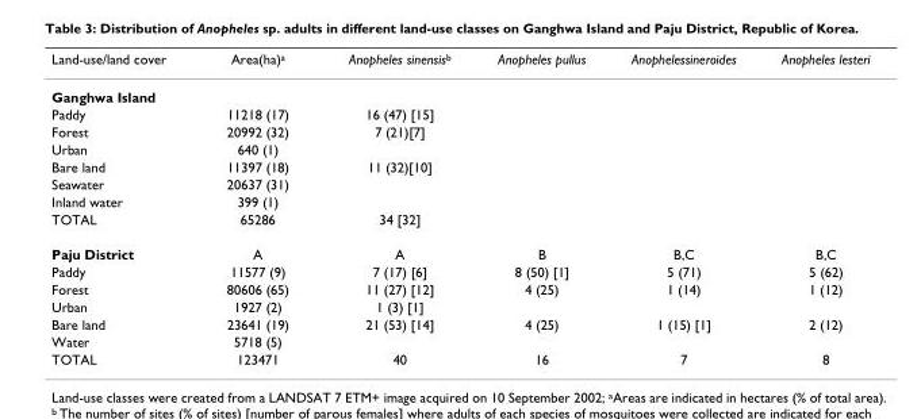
<table><thead><tr><td>Land-use/land cover</td><td>Area(ha)<sup>a</sup></td><td>Anopheles sinensis<sup>b</sup></td><td>Anopheles pullus</td><td>Anophelessineroides</td><td>Anopheles lesteri</td></tr></thead><tbody><tr><td colspan="6">Ganghwa Island</td></tr><tr><td>Paddy</td><td>11218 (17)</td><td>16 (47) [15]</td><td></td><td></td><td></td></tr><tr><td>Forest</td><td>20992 (32)</td><td>7 (21)[7]</td><td></td><td></td><td></td></tr><tr><td>Urban</td><td>640 (1)</td><td></td><td></td><td></td><td></td></tr><tr><td>Bare land</td><td>11397 (18)</td><td>11 (32)[10]</td><td></td><td></td><td></td></tr><tr><td>Seawater</td><td>20637 (31)</td><td></td><td></td><td></td><td></td></tr><tr><td>Inland water</td><td>399 (1)</td><td></td><td></td><td></td><td></td></tr><tr><td>TOTAL</td><td>65286</td><td>34 [32]</td><td></td><td></td><td></td></tr><tr><td>Paju District</td><td>A</td><td>A</td><td>B</td><td>B,C</td><td>B,C</td></tr><tr><td>Paddy</td><td>11577 (9)</td><td>7 (17) [6]</td><td>8 (50) [1]</td><td>5 (71)</td><td>5 (62)</td></tr><tr><td>Forest</td><td>80606 (65)</td><td>11 (27) [12]</td><td>4 (25)</td><td>1 (14)</td><td>1 (12)</td></tr><tr><td>Urban</td><td>1927 (2)</td><td>1 (3) [1]</td><td></td><td></td><td></td></tr><tr><td>Bare land</td><td>23641 (19)</td><td>21 (53) [14]</td><td>4 (25)</td><td>1 (15) [1]</td><td>2 (12)</td></tr><tr><td>Water</td><td>5718 (5)</td><td></td><td></td><td></td><td></td></tr><tr><td>TOTAL</td><td>123471</td><td>40</td><td>16</td><td>7</td><td>8</td></tr></tbody></table>